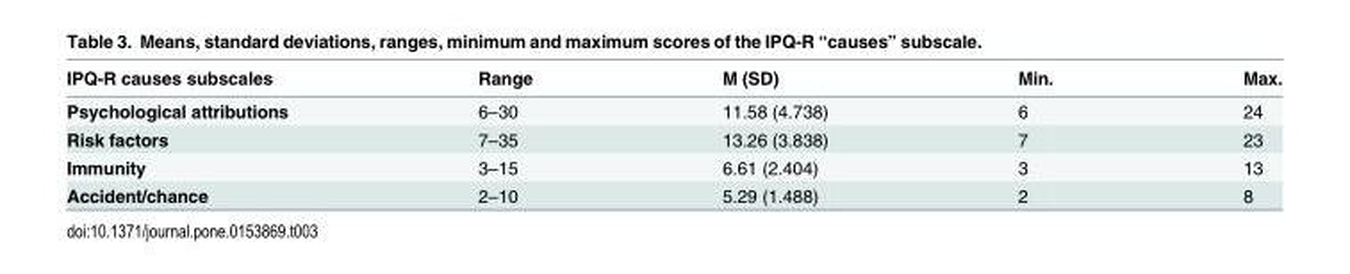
<table><thead><tr><td>IPQ-R causes subscales</td><td>Range</td><td>M (SD)</td><td>Min.</td><td>Max.</td></tr></thead><tbody><tr><td>Psychological attributions</td><td>6–30</td><td>11.58 (4.738)</td><td>6</td><td>24</td></tr><tr><td>Risk factors</td><td>7–35</td><td>13.26 (3.838)</td><td>7</td><td>23</td></tr><tr><td>Immunity</td><td>3–15</td><td>6.61 (2.404)</td><td>3</td><td>13</td></tr><tr><td>Accident/chance</td><td>2–10</td><td>5.29 (1.488)</td><td>2</td><td>8</td></tr></tbody></table>